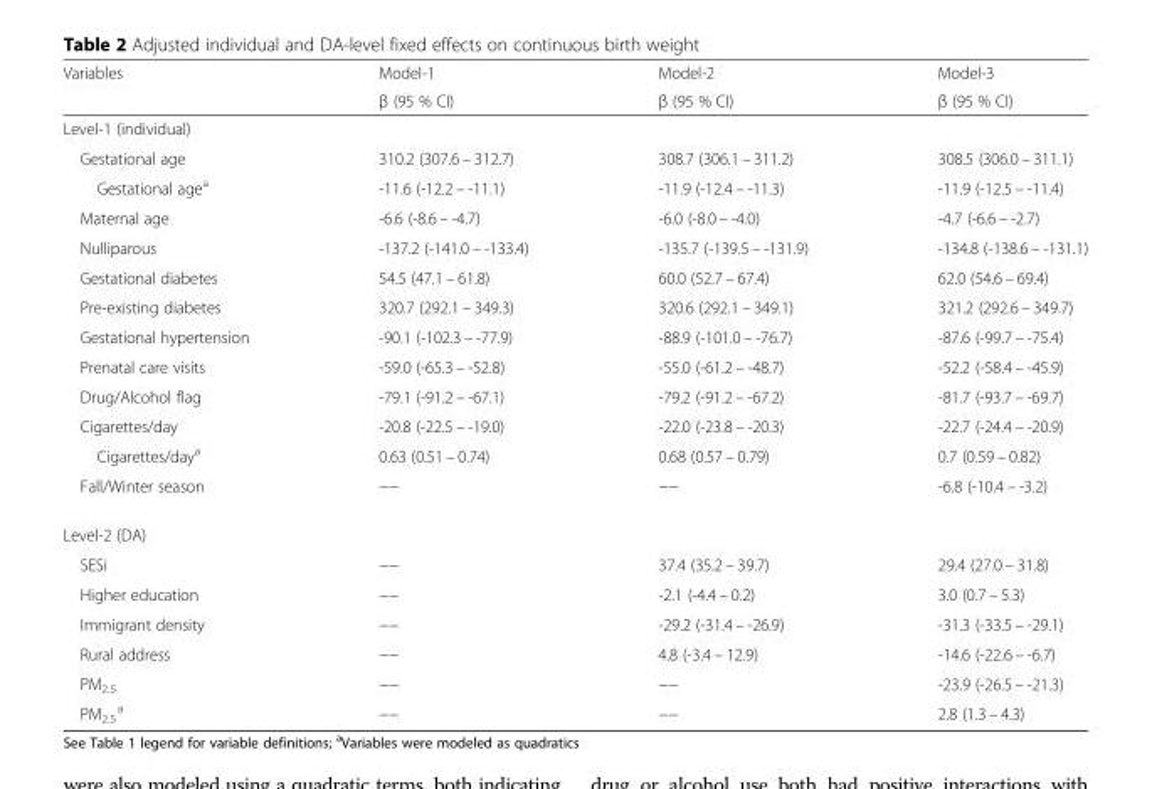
<table><thead><tr><td rowspan="2">Variables</td><td rowspan="2">Model-1 β (95 % CI)</td><td rowspan="2">Model-2 β (95 % CI)</td><td rowspan="2">Model-3 β (95 % CI)</td></tr><tr></tr></thead><tbody><tr><td colspan="4">Level-1 (individual)</td></tr><tr><td>Gestational age</td><td>310.2 (307.6 – 312.7)</td><td>308.7 (306.1 – 311.2)</td><td>308.5 (306.0 – 311.1)</td></tr><tr><td>Gestational age<sup>a</sup></td><td>-11.6 (-12.2 – -11.1)</td><td>-11.9 (-12.4 – -11.3)</td><td>-11.9 (-12.5 – -11.4)</td></tr><tr><td>Maternal age</td><td>-6.6 (-8.6 – -4.7)</td><td>-6.0 (-8.0 – -4.0)</td><td>-4.7 (-6.6 – -2.7)</td></tr><tr><td>Nulliparous</td><td>-137.2 (-141.0 – -133.4)</td><td>-135.7 (-139.5 – -131.9)</td><td>-134.8 (-138.6 – -131.1)</td></tr><tr><td>Gestational diabetes</td><td>54.5 (47.1 – 61.8)</td><td>60.0 (52.7 – 67.4)</td><td>62.0 (54.6 – 69.4)</td></tr><tr><td>Pre-existing diabetes</td><td>320.7 (292.1 – 349.3)</td><td>320.6 (292.1 – 349.1)</td><td>321.2 (292.6 – 349.7)</td></tr><tr><td>Gestational hypertension</td><td>-90.1 (-102.3 – -77.9)</td><td>-88.9 (-101.0 – -76.7)</td><td>-87.6 (-99.7 – -75.4)</td></tr><tr><td>Prenatal care visits</td><td>-59.0 (-65.3 – -52.8)</td><td>-55.0 (-61.2 – -48.7)</td><td>-52.2 (-58.4 – -45.9)</td></tr><tr><td>Drug/Alcohol flag</td><td>-79.1 (-91.2 – -67.1)</td><td>-79.2 (-91.2 – -67.2)</td><td>-81.7 (-93.7 – -69.7)</td></tr><tr><td>Cigarettes/day</td><td>-20.8 (-22.5 – -19.0)</td><td>-22.0 (-23.8 – -20.3)</td><td>-22.7 (-24.4 – -20.9)</td></tr><tr><td>Cigarettes/day<sup>a</sup></td><td>0.63 (0.51 – 0.74)</td><td>0.68 (0.57 – 0.79)</td><td>0.7 (0.59 – 0.82)</td></tr><tr><td>Fall/Winter season</td><td>−−</td><td>−−</td><td>-6.8 (-10.4 – -3.2)</td></tr><tr><td colspan="4">Level-2 (DA)</td></tr><tr><td>SESi</td><td>−−</td><td>37.4 (35.2 – 39.7)</td><td>29.4 (27.0 – 31.8)</td></tr><tr><td>Higher education</td><td>−−</td><td>-2.1 (-4.4 – 0.2)</td><td>3.0 (0.7 – 5.3)</td></tr><tr><td>Immigrant density</td><td>−−</td><td>-29.2 (-31.4 – -26.9)</td><td>-31.3 (-33.5 – -29.1)</td></tr><tr><td>Rural address</td><td>−−</td><td>4.8 (-3.4 – 12.9)</td><td>-14.6 (-22.6 – -6.7)</td></tr><tr><td>PM<sub>2.5</sub></td><td>−−</td><td>−−</td><td>-23.9 (-26.5 – -21.3)</td></tr><tr><td>PM<sub>2.5</sub> <sup>a</sup></td><td>−−</td><td>−−</td><td>2.8 (1.3 – 4.3)</td></tr></tbody></table>